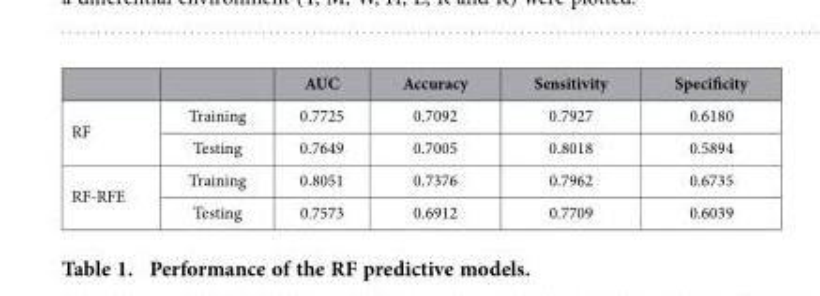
<table><thead><tr><td></td><td></td><td>AUC</td><td>Accuracy</td><td>Sensitivity</td><td>Specificity</td></tr></thead><tbody><tr><td rowspan="2">RF</td><td>Training</td><td>0.7725</td><td>0.7092</td><td>0.7927</td><td>0.6180</td></tr><tr><td>Testing</td><td>0.7649</td><td>0.7005</td><td>0.8018</td><td>0.5894</td></tr><tr><td rowspan="2">RF-RFE</td><td>Training</td><td>0.8051</td><td>0.7376</td><td>0.7962</td><td>0.6735</td></tr><tr><td>Testing</td><td>0.7573</td><td>0.6912</td><td>0.7709</td><td>0.6039</td></tr></tbody></table>